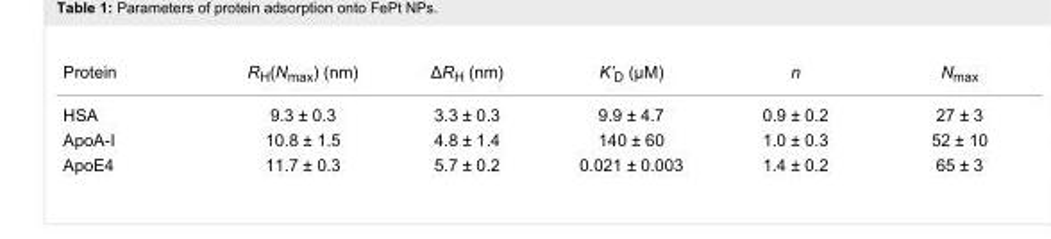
<table><tbody><tr><td>Protein</td><td>R<sub>H</sub>(N<sub>max</sub>) (nm)</td><td>ΔR<sub>H</sub> (nm)</td><td>K’<sub>D</sub> (µM)</td><td>n</td><td>N<sub>max</sub></td></tr><tr><td>HSA</td><td>9.3 ± 0.3</td><td>3.3 ± 0.3</td><td>9.9 ± 4.7</td><td>0.9 ± 0.2</td><td>27 ± 3</td></tr><tr><td>ApoA-I</td><td>10.8 ± 1.5</td><td>4.8 ± 1.4</td><td>140 ± 60</td><td>1.0 ± 0.3</td><td>52 ± 10</td></tr><tr><td>ApoE4</td><td>11.7 ± 0.3</td><td>5.7 ± 0.2</td><td>0.021 ± 0.003</td><td>1.4 ± 0.2</td><td>65 ± 3</td></tr></tbody></table>